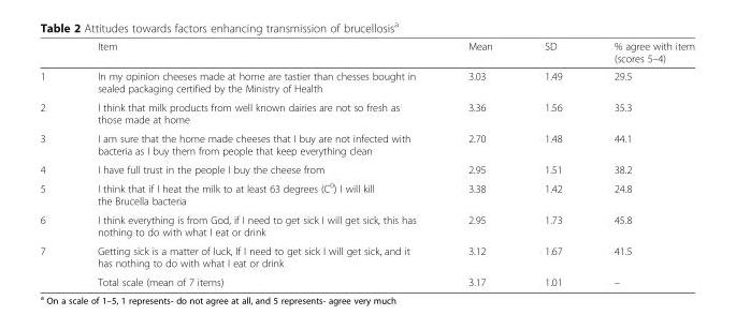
<table><thead><tr><td></td><td>Item</td><td>Mean</td><td>SD</td><td>% agree with item (scores 5–4)</td></tr></thead><tbody><tr><td>1</td><td>In my opinion cheeses made at home are tastier than chesses bought in sealed packaging certified by the Ministry of Health</td><td>3.03</td><td>1.49</td><td>29.5</td></tr><tr><td>2</td><td>I think that milk products from well known dairies are not so fresh as those made at home</td><td>3.36</td><td>1.56</td><td>35.3</td></tr><tr><td>3</td><td>I am sure that the home made cheeses that I buy are not infected with bacteria as I buy them from people that keep everything clean</td><td>2.70</td><td>1.48</td><td>44.1</td></tr><tr><td>4</td><td>I have full trust in the people I buy the cheese from</td><td>2.95</td><td>1.51</td><td>38.2</td></tr><tr><td>5</td><td>I think that if I heat the milk to at least 63 degrees (C<sup>0</sup>) I will kill the Brucella bacteria</td><td>3.38</td><td>1.42</td><td>24.8</td></tr><tr><td>6</td><td>I think everything is from God, if I need to get sick I will get sick, this has nothing to do with what I eat or drink</td><td>2.95</td><td>1.73</td><td>45.8</td></tr><tr><td rowspan="2">7</td><td>Getting sick is a matter of luck, If I need to get sick I will get sick, and it has nothing to do with what I eat or drink</td><td>3.12</td><td>1.67</td><td>41.5</td></tr><tr><td>Total scale (mean of 7 items)</td><td>3.17</td><td>1.01</td><td>–</td></tr></tbody></table>